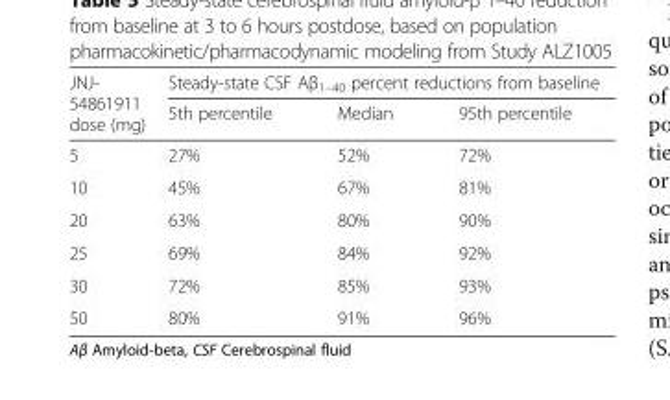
<table><thead><tr><td rowspan="2">JNJ- 54861911 dose (mg)</td><td colspan="3">Steady-state CSF Aβ<sub>1–40</sub> percent reductions from baseline</td></tr><tr><td>5th percentile</td><td>Median</td><td>95th percentile</td></tr></thead><tbody><tr><td>5</td><td>27%</td><td>52%</td><td>72%</td></tr><tr><td>10</td><td>45%</td><td>67%</td><td>81%</td></tr><tr><td>20</td><td>63%</td><td>80%</td><td>90%</td></tr><tr><td>25</td><td>69%</td><td>84%</td><td>92%</td></tr><tr><td>30</td><td>72%</td><td>85%</td><td>93%</td></tr><tr><td>50</td><td>80%</td><td>91%</td><td>96%</td></tr></tbody></table>